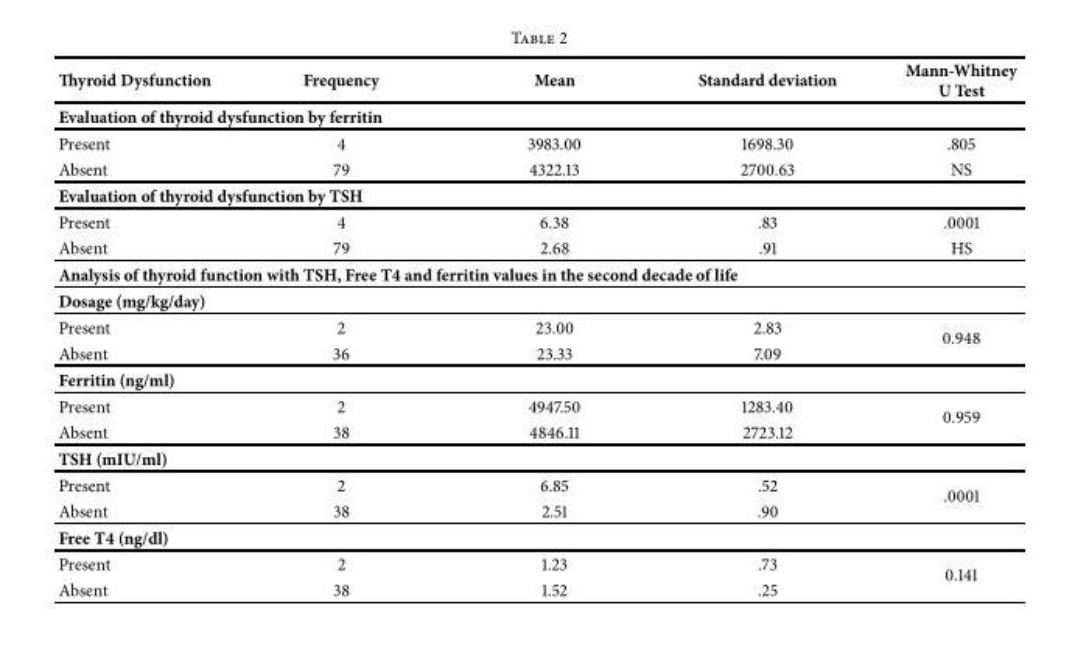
<table><thead><tr><td>Thyroid Dysfunction</td><td>Frequency</td><td>Mean</td><td>Standard deviation</td><td>Mann-Whitney U Test</td></tr></thead><tbody><tr><td colspan="5">Evaluation of thyroid dysfunction by ferritin</td></tr><tr><td>Present</td><td>4</td><td>3983.00</td><td>1698.30</td><td>.805</td></tr><tr><td>Absent</td><td>79</td><td>4322.13</td><td>2700.63</td><td>NS</td></tr><tr><td colspan="5">Evaluation of thyroid dysfunction by TSH</td></tr><tr><td>Present</td><td>4</td><td>6.38</td><td>.83</td><td>.0001</td></tr><tr><td>Absent</td><td>79</td><td>2.68</td><td>.91</td><td>HS</td></tr><tr><td colspan="5">Analysis of thyroid function with TSH, Free T4 and ferritin values in the second decade of life</td></tr><tr><td colspan="5">Dosage (mg/kg/day)</td></tr><tr><td>Present</td><td>2</td><td>23.00</td><td>2.83</td><td rowspan="2">0.948</td></tr><tr><td>Absent</td><td>36</td><td>23.33</td><td>7.09</td></tr><tr><td colspan="5">Ferritin (ng/ml)</td></tr><tr><td>Present</td><td>2</td><td>4947.50</td><td>1283.40</td><td rowspan="2">0.959</td></tr><tr><td>Absent</td><td>38</td><td>4846.11</td><td>2723.12</td></tr><tr><td colspan="5">TSH (mIU/ml)</td></tr><tr><td>Present</td><td>2</td><td>6.85</td><td>.52</td><td rowspan="2">.0001</td></tr><tr><td>Absent</td><td>38</td><td>2.51</td><td>.90</td></tr><tr><td colspan="5">Free T4 (ng/dl)</td></tr><tr><td>Present</td><td>2</td><td>1.23</td><td>.73</td><td rowspan="2">0.141</td></tr><tr><td>Absent</td><td>38</td><td>1.52</td><td>.25</td></tr></tbody></table>